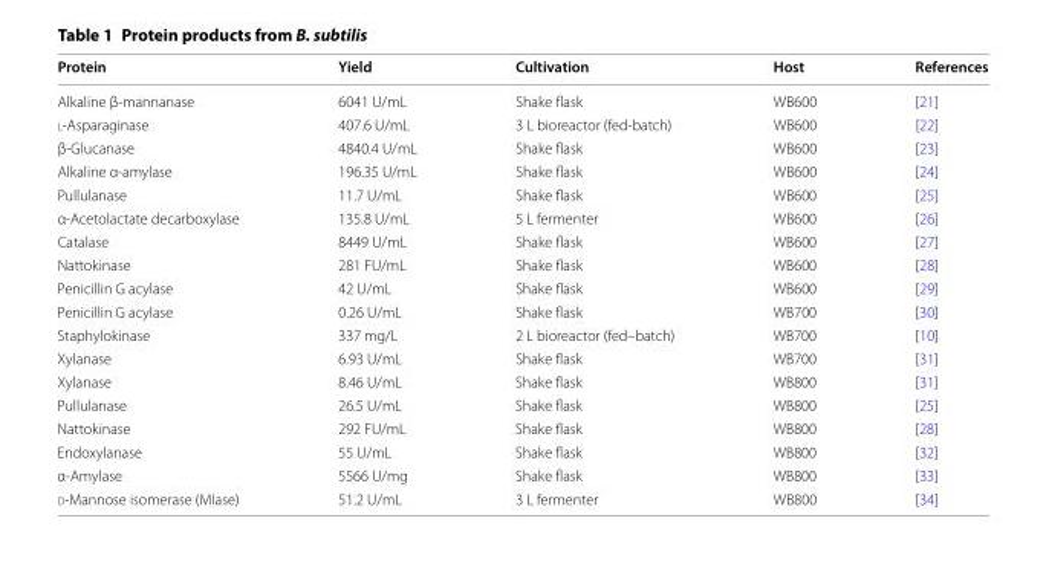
<table><thead><tr><td>Protein</td><td>Yield</td><td>Cultivation</td><td>Host</td><td>References</td></tr></thead><tbody><tr><td>Alkaline β-mannanase</td><td>6041 U/mL</td><td>Shake flask</td><td>WB600</td><td>[21]</td></tr><tr><td>l-Asparaginase</td><td>407.6 U/mL</td><td>3 L bioreactor (fed-batch)</td><td>WB600</td><td>[22]</td></tr><tr><td>β-Glucanase</td><td>4840.4 U/mL</td><td>Shake flask</td><td>WB600</td><td>[23]</td></tr><tr><td>Alkaline α-amylase</td><td>196.35 U/mL</td><td>Shake flask</td><td>WB600</td><td>[24]</td></tr><tr><td>Pullulanase</td><td>11.7 U/mL</td><td>Shake flask</td><td>WB600</td><td>[25]</td></tr><tr><td>α-Acetolactate decarboxylase</td><td>135.8 U/mL</td><td>5 L fermenter</td><td>WB600</td><td>[26]</td></tr><tr><td>Catalase</td><td>8449 U/mL</td><td>Shake flask</td><td>WB600</td><td>[27]</td></tr><tr><td>Nattokinase</td><td>281 FU/mL</td><td>Shake flask</td><td>WB600</td><td>[28]</td></tr><tr><td>Penicillin G acylase</td><td>42 U/mL</td><td>Shake flask</td><td>WB600</td><td>[29]</td></tr><tr><td>Penicillin G acylase</td><td>0.26 U/mL</td><td>Shake flask</td><td>WB700</td><td>[30]</td></tr><tr><td>Staphylokinase</td><td>337 mg/L</td><td>2 L bioreactor (fed–batch)</td><td>WB700</td><td>[10]</td></tr><tr><td>Xylanase</td><td>6.93 U/mL</td><td>Shake flask</td><td>WB700</td><td>[31]</td></tr><tr><td>Xylanase</td><td>8.46 U/mL</td><td>Shake flask</td><td>WB800</td><td>[31]</td></tr><tr><td>Pullulanase</td><td>26.5 U/mL</td><td>Shake flask</td><td>WB800</td><td>[25]</td></tr><tr><td>Nattokinase</td><td>292 FU/mL</td><td>Shake flask</td><td>WB800</td><td>[28]</td></tr><tr><td>Endoxylanase</td><td>55 U/mL</td><td>Shake flask</td><td>WB800</td><td>[32]</td></tr><tr><td>α-Amylase</td><td>5566 U/mg</td><td>Shake flask</td><td>WB800</td><td>[33]</td></tr><tr><td>d-Mannose isomerase (MIase)</td><td>51.2 U/mL</td><td>3 L fermenter</td><td>WB800</td><td>[34]</td></tr></tbody></table>